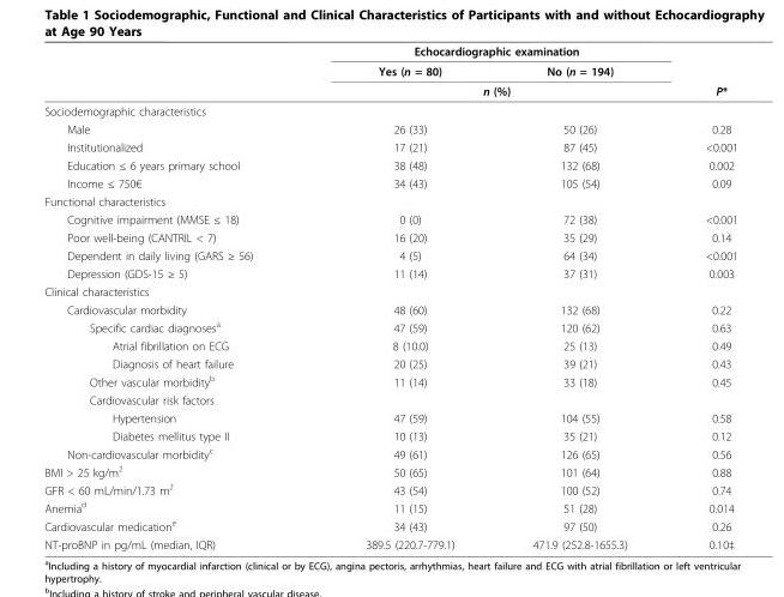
<table><thead><tr><td rowspan="3"></td><td colspan="2">Echocardiographic examination</td><td rowspan="3">P*</td></tr><tr><td>Yes (n = 80)</td><td>No (n = 194)</td></tr><tr><td colspan="2">n (%)</td></tr></thead><tbody><tr><td colspan="4">Sociodemographic characteristics</td></tr><tr><td>Male</td><td>26 (33)</td><td>50 (26)</td><td>0.28</td></tr><tr><td>Institutionalized</td><td>17 (21)</td><td>87 (45)</td><td>&lt;0.001</td></tr><tr><td>Education ≤ 6 years primary school</td><td>38 (48)</td><td>132 (68)</td><td>0.002</td></tr><tr><td>Income ≤ 750€</td><td>34 (43)</td><td>105 (54)</td><td>0.09</td></tr><tr><td colspan="4">Functional characteristics</td></tr><tr><td>Cognitive impairment (MMSE ≤ 18)</td><td>0 (0)</td><td>72 (38)</td><td>&lt;0.001</td></tr><tr><td>Poor well-being (CANTRIL &lt; 7)</td><td>16 (20)</td><td>35 (29)</td><td>0.14</td></tr><tr><td>Dependent in daily living (GARS ≥ 56)</td><td>4 (5)</td><td>64 (34)</td><td>&lt;0.001</td></tr><tr><td>Depression (GDS-15 ≥ 5)</td><td>11 (14)</td><td>37 (31)</td><td>0.003</td></tr><tr><td colspan="4">Clinical characteristics</td></tr><tr><td>Cardiovascular morbidity</td><td>48 (60)</td><td>132 (68)</td><td>0.22</td></tr><tr><td>Specific cardiac diagnoses<sup>a</sup></td><td>47 (59)</td><td>120 (62)</td><td>0.63</td></tr><tr><td>Atrial fibrillation on ECG</td><td>8 (10.0)</td><td>25 (13)</td><td>0.49</td></tr><tr><td>Diagnosis of heart failure</td><td>20 (25)</td><td>39 (21)</td><td>0.43</td></tr><tr><td>Other vascular morbidity<sup>b</sup></td><td>11 (14)</td><td>33 (18)</td><td>0.45</td></tr><tr><td colspan="4">Cardiovascular risk factors</td></tr><tr><td>Hypertension</td><td>47 (59)</td><td>104 (55)</td><td>0.58</td></tr><tr><td>Diabetes mellitus type II</td><td>10 (13)</td><td>35 (21)</td><td>0.12</td></tr><tr><td>Non-cardiovascular morbidity<sup>c</sup></td><td>49 (61)</td><td>126 (65)</td><td>0.56</td></tr><tr><td>BMI &gt; 25 kg/m<sup>2</sup></td><td>50 (65)</td><td>101 (64)</td><td>0.88</td></tr><tr><td>GFR &lt; 60 mL/min/1.73 m<sup>2</sup></td><td>43 (54)</td><td>100 (52)</td><td>0.74</td></tr><tr><td>Anemia<sup>d</sup></td><td>11 (15)</td><td>51 (28)</td><td>0.014</td></tr><tr><td>Cardiovascular medication<sup>e</sup></td><td>34 (43)</td><td>97 (50)</td><td>0.26</td></tr><tr><td>NT-proBNP in pg/mL (median, IQR)</td><td>389.5 (220.7-779.1)</td><td>471.9 (252.8-1655.3)</td><td>0.10‡</td></tr></tbody></table>